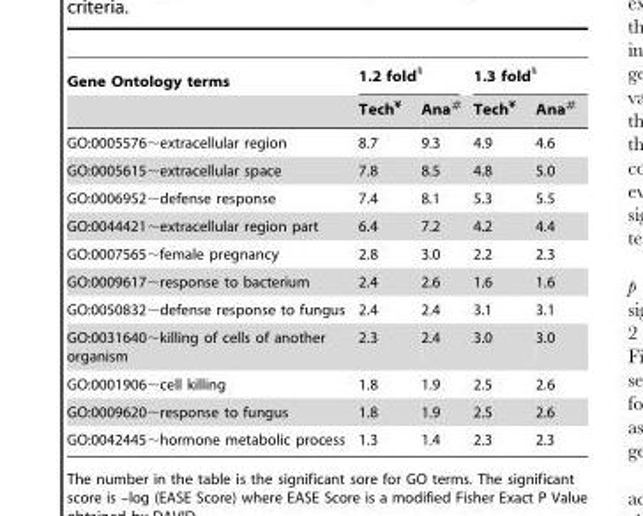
<table><thead><tr><td rowspan="2">Gene Ontology terms</td><td colspan="2">1.2 fold§</td><td colspan="2">1.3 fold§</td></tr><tr><td>Tech¥</td><td>Ana#</td><td>Tech¥</td><td>Ana#</td></tr></thead><tbody><tr><td>GO:0005576∼extracellular region</td><td>8.7</td><td>9.3</td><td>4.9</td><td>4.6</td></tr><tr><td>GO:0005615∼extracellular space</td><td>7.8</td><td>8.5</td><td>4.8</td><td>5.0</td></tr><tr><td>GO:0006952∼defense response</td><td>7.4</td><td>8.1</td><td>5.3</td><td>5.5</td></tr><tr><td>GO:0044421∼extracellular region part</td><td>6.4</td><td>7.2</td><td>4.2</td><td>4.4</td></tr><tr><td>GO:0007565∼female pregnancy</td><td>2.8</td><td>3.0</td><td>2.2</td><td>2.3</td></tr><tr><td>GO:0009617∼response to bacterium</td><td>2.4</td><td>2.6</td><td>1.6</td><td>1.6</td></tr><tr><td>GO:0050832∼defense response to fungus</td><td>2.4</td><td>2.4</td><td>3.1</td><td>3.1</td></tr><tr><td>GO:0031640∼killing of cells of another organism</td><td>2.3</td><td>2.4</td><td>3.0</td><td>3.0</td></tr><tr><td>GO:0001906∼cell killing</td><td>1.8</td><td>1.9</td><td>2.5</td><td>2.6</td></tr><tr><td>GO:0009620∼response to fungus</td><td>1.8</td><td>1.9</td><td>2.5</td><td>2.6</td></tr><tr><td>GO:0042445∼hormone metabolic process</td><td>1.3</td><td>1.4</td><td>2.3</td><td>2.3</td></tr></tbody></table>